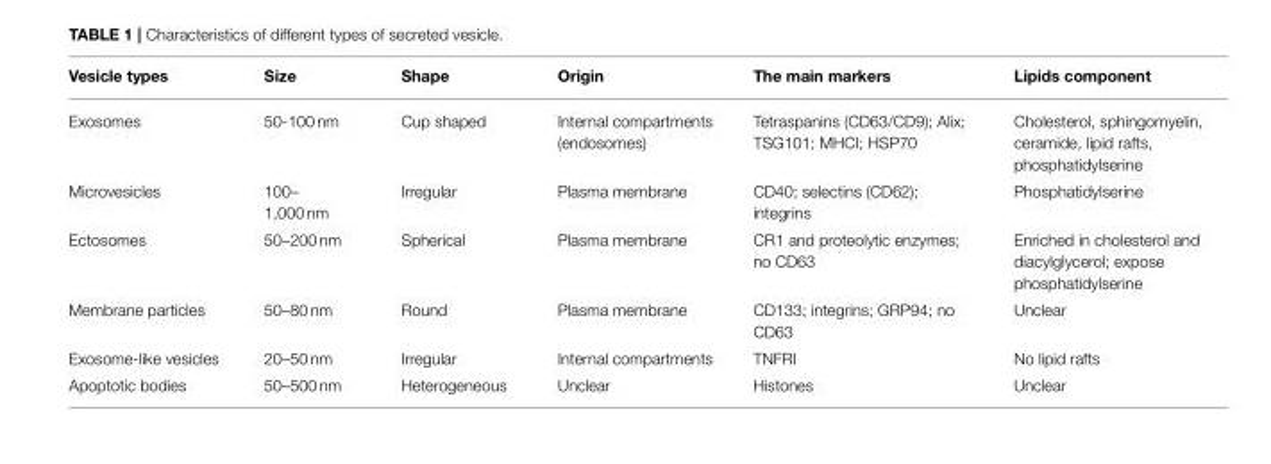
<table><thead><tr><td>Vesicle types</td><td>Size</td><td>Shape</td><td>Origin</td><td>The main markers</td><td>Lipids component</td></tr></thead><tbody><tr><td>Exosomes</td><td>50-100 nm</td><td>Cup shaped</td><td>Internal compartments (endosomes)</td><td>Tetraspanins (CD63/CD9); Alix; TSG101; MHCI; HSP70</td><td>Cholesterol, sphingomyelin, ceramide, lipid rafts, phosphatidylserine</td></tr><tr><td>Microvesicles</td><td>100– 1,000 nm</td><td>Irregular</td><td>Plasma membrane</td><td>CD40; selectins (CD62); integrins</td><td>Phosphatidylserine</td></tr><tr><td>Ectosomes</td><td>50–200 nm</td><td>Spherical</td><td>Plasma membrane</td><td>CR1 and proteolytic enzymes; no CD63</td><td>Enriched in cholesterol and diacylglycerol; expose phosphatidylserine</td></tr><tr><td>Membrane particles</td><td>50–80 nm</td><td>Round</td><td>Plasma membrane</td><td>CD133; integrins; GRP94; no CD63</td><td>Unclear</td></tr><tr><td>Exosome-like vesicles</td><td>20–50 nm</td><td>Irregular</td><td>Internal compartments</td><td>TNFRI</td><td>No lipid rafts</td></tr><tr><td>Apoptotic bodies</td><td>50–500 nm</td><td>Heterogeneous</td><td>Unclear</td><td>Histones</td><td>Unclear</td></tr></tbody></table>